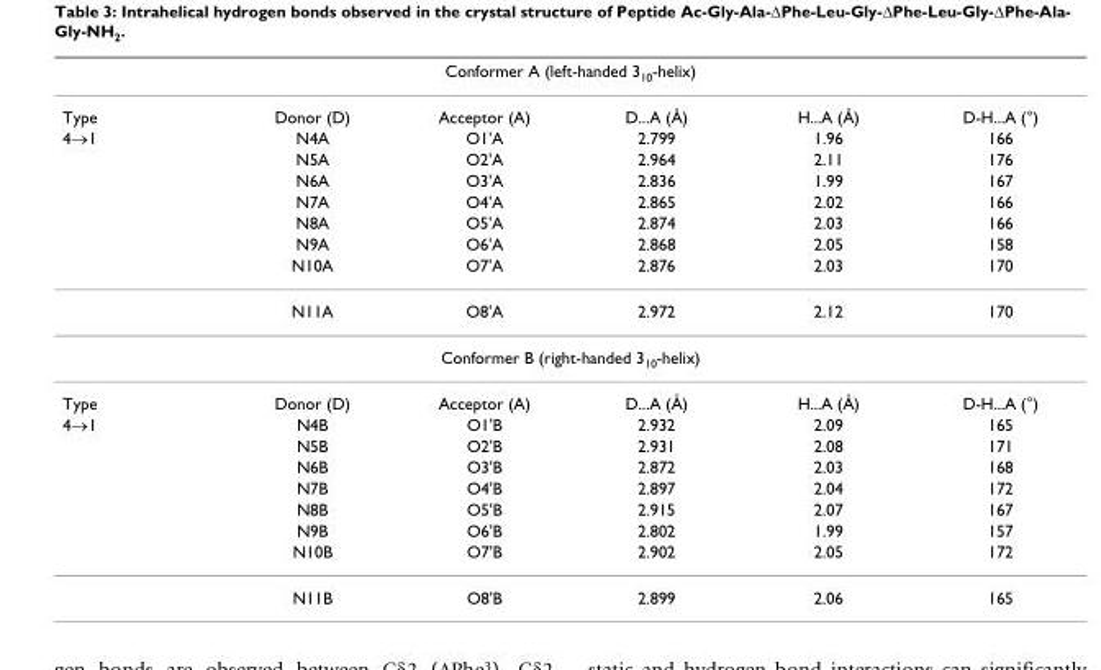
<table><thead><tr><td colspan="6">Conformer A (left-handed 3<sub>10</sub>-helix)</td></tr><tr><td>Type</td><td>Donor (D)</td><td>Acceptor (A)</td><td>D...A (Å)</td><td>H...A (Å)</td><td>D-H...A (°)</td></tr></thead><tbody><tr><td rowspan="8">4→1</td><td>N4A</td><td>O1&#x27;A</td><td>2.799</td><td>1.96</td><td>166</td></tr><tr><td>N5A</td><td>O2&#x27;A</td><td>2.964</td><td>2.11</td><td>176</td></tr><tr><td>N6A</td><td>O3&#x27;A</td><td>2.836</td><td>1.99</td><td>167</td></tr><tr><td>N7A</td><td>O4&#x27;A</td><td>2.865</td><td>2.02</td><td>166</td></tr><tr><td>N8A</td><td>O5&#x27;A</td><td>2.874</td><td>2.03</td><td>166</td></tr><tr><td>N9A</td><td>O6&#x27;A</td><td>2.868</td><td>2.05</td><td>158</td></tr><tr><td>N10A</td><td>O7&#x27;A</td><td>2.876</td><td>2.03</td><td>170</td></tr><tr><td>N11A</td><td>O8&#x27;A</td><td>2.972</td><td>2.12</td><td>170</td></tr><tr><td colspan="6">Conformer B (right-handed 3<sub>10</sub>-helix)</td></tr><tr><td>Type</td><td>Donor (D)</td><td>Acceptor (A)</td><td>D...A (Å)</td><td>H...A (Å)</td><td>D-H...A (°)</td></tr><tr><td rowspan="8">4→1</td><td>N4B</td><td>O1&#x27;B</td><td>2.932</td><td>2.09</td><td>165</td></tr><tr><td>N5B</td><td>O2&#x27;B</td><td>2.931</td><td>2.08</td><td>171</td></tr><tr><td>N6B</td><td>O3&#x27;B</td><td>2.872</td><td>2.03</td><td>168</td></tr><tr><td>N7B</td><td>O4&#x27;B</td><td>2.897</td><td>2.04</td><td>172</td></tr><tr><td>N8B</td><td>O5&#x27;B</td><td>2.915</td><td>2.07</td><td>167</td></tr><tr><td>N9B</td><td>O6&#x27;B</td><td>2.802</td><td>1.99</td><td>157</td></tr><tr><td>N10B</td><td>O7&#x27;B</td><td>2.902</td><td>2.05</td><td>172</td></tr><tr><td>N11B</td><td>O8&#x27;B</td><td>2.899</td><td>2.06</td><td>165</td></tr></tbody></table>